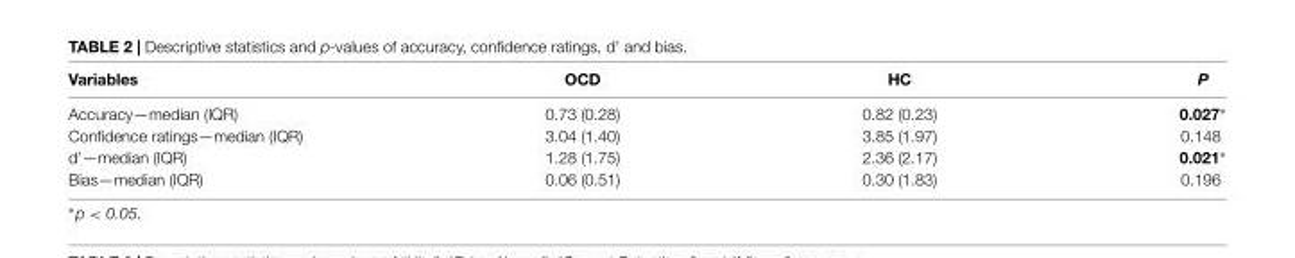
<table><thead><tr><td>Variables</td><td>OCD</td><td>HC</td><td>P</td></tr></thead><tbody><tr><td>Accuracy—median (IQR)</td><td>0.73 (0.28)</td><td>0.82 (0.23)</td><td>0.027∗</td></tr><tr><td>Confidence ratings—median (IQR)</td><td>3.04 (1.40)</td><td>3.85 (1.97)</td><td>0.148</td></tr><tr><td>d′—median (IQR)</td><td>1.28 (1.75)</td><td>2.36 (2.17)</td><td>0.021∗</td></tr><tr><td>Bias—median (IQR)</td><td>0.06 (0.51)</td><td>0.30 (1.83)</td><td>0.196</td></tr></tbody></table>